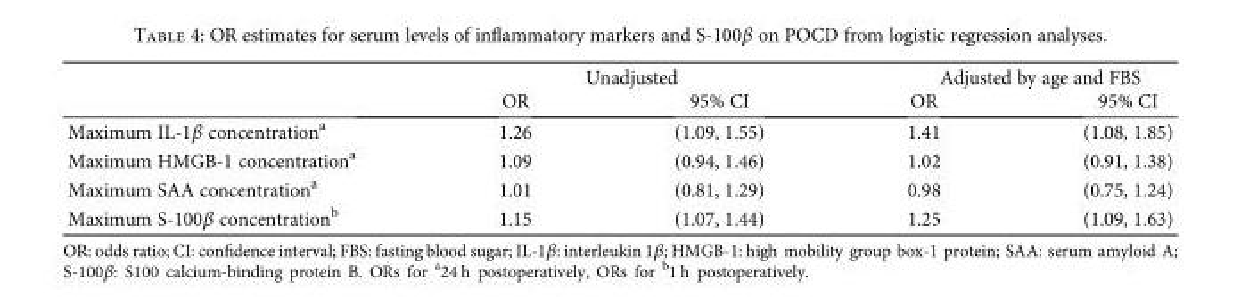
<table><thead><tr><td rowspan="2"></td><td colspan="2">Unadjusted</td><td colspan="2">Adjusted by age and FBS</td></tr><tr><td>OR</td><td>95% CI</td><td>OR</td><td>95% CI</td></tr></thead><tbody><tr><td>Maximum IL-1β concentration<sup>a</sup></td><td>1.26</td><td>(1.09, 1.55)</td><td>1.41</td><td>(1.08, 1.85)</td></tr><tr><td>Maximum HMGB-1 concentration<sup>a</sup></td><td>1.09</td><td>(0.94, 1.46)</td><td>1.02</td><td>(0.91, 1.38)</td></tr><tr><td>Maximum SAA concentration<sup>a</sup></td><td>1.01</td><td>(0.81, 1.29)</td><td>0.98</td><td>(0.75, 1.24)</td></tr><tr><td>Maximum S-100β concentration<sup>b</sup></td><td>1.15</td><td>(1.07, 1.44)</td><td>1.25</td><td>(1.09, 1.63)</td></tr></tbody></table>